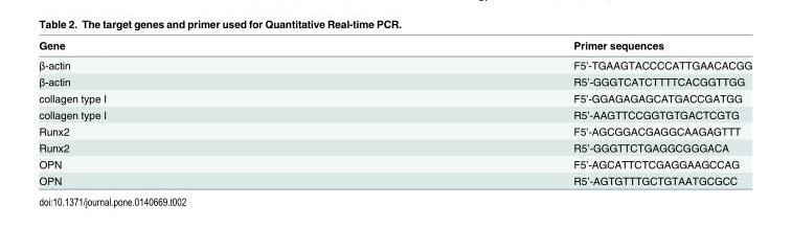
<table><thead><tr><td>Gene</td><td>Primer sequences</td></tr></thead><tbody><tr><td>β-actin</td><td>F5’-TGAAGTACCCCATTGAACACGG</td></tr><tr><td>β-actin</td><td>R5’-GGGTCATCTTTTCACGGTTGG</td></tr><tr><td>collagen type I</td><td>F5’-GGAGAGAGCATGACCGATGG</td></tr><tr><td>collagen type I</td><td>R5’-AAGTTCCGGTGTGACTCGTG</td></tr><tr><td>Runx2</td><td>F5’-AGCGGACGAGGCAAGAGTTT</td></tr><tr><td>Runx2</td><td>R5’-GGGTTCTGAGGCGGGACA</td></tr><tr><td>OPN</td><td>F5’-AGCATTCTCGAGGAAGCCAG</td></tr><tr><td>OPN</td><td>R5’-AGTGTTTGCTGTAATGCGCC</td></tr></tbody></table>